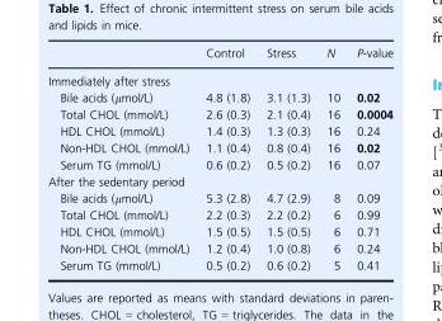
<table><thead><tr><td></td><td>Control</td><td>Stress</td><td>N</td><td>P-value</td></tr></thead><tbody><tr><td colspan="5">Immediately after stress</td></tr><tr><td>Bile acids (μmol/L)</td><td>4.8 (1.8)</td><td>3.1 (1.3)</td><td>10</td><td>0.02</td></tr><tr><td>Total CHOL (mmol/L)</td><td>2.6 (0.3)</td><td>2.1 (0.4)</td><td>16</td><td>0.0004</td></tr><tr><td>HDL CHOL (mmol/L)</td><td>1.4 (0.3)</td><td>1.3 (0.3)</td><td>16</td><td>0.24</td></tr><tr><td>Non-HDL CHOL (mmol/L)</td><td>1.1 (0.4)</td><td>0.8 (0.4)</td><td>16</td><td>0.02</td></tr><tr><td>Serum TG (mmol/L)</td><td>0.6 (0.2)</td><td>0.5 (0.2)</td><td>16</td><td>0.07</td></tr><tr><td colspan="5">After the sedentary period</td></tr><tr><td>Bile acids (μmol/L)</td><td>5.3 (2.8)</td><td>4.7 (2.9)</td><td>8</td><td>0.09</td></tr><tr><td>Total CHOL (mmol/L)</td><td>2.2 (0.3)</td><td>2.2 (0.2)</td><td>6</td><td>0.99</td></tr><tr><td>HDL CHOL (mmol/L)</td><td>1.5 (0.5)</td><td>1.5 (0.5)</td><td>6</td><td>0.71</td></tr><tr><td>Non-HDL CHOL (mmol/L)</td><td>1.2 (0.4)</td><td>1.0 (0.8)</td><td>6</td><td>0.24</td></tr><tr><td>Serum TG (mmol/L)</td><td>0.5 (0.2)</td><td>0.6 (0.2)</td><td>5</td><td>0.41</td></tr></tbody></table>